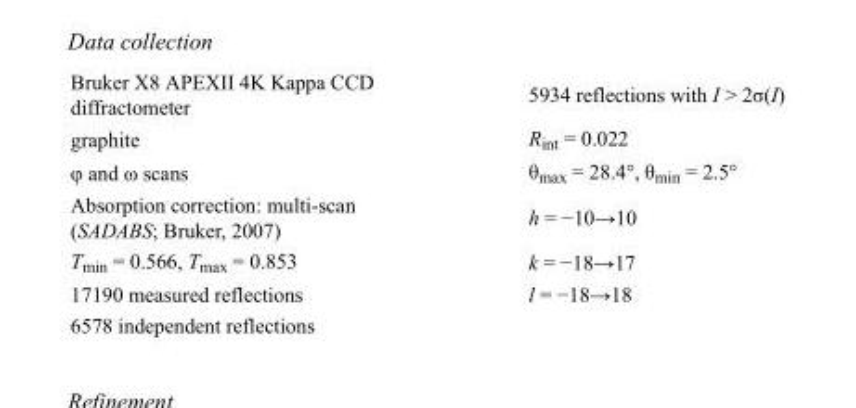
<table><tbody><tr><td>Bruker X8 APEXII 4K Kappa CCD diffractometer</td><td>5934 reflections with I &gt; 2σ(I)</td></tr><tr><td>graphite</td><td>R<sub>int</sub> = 0.022</td></tr><tr><td>φ and ω scans</td><td>θ<sub>max</sub> = 28.4°, θ<sub>min</sub> = 2.5°</td></tr><tr><td>Absorption correction: multi-scan (SADABS; Bruker, 2007)</td><td>h = −10→10</td></tr><tr><td>T<sub>min</sub> = 0.566, T<sub>max</sub> = 0.853</td><td>k = −18→17</td></tr><tr><td>17190 measured reflections</td><td>l = −18→18</td></tr><tr><td>6578 independent reflections</td><td></td></tr></tbody></table>